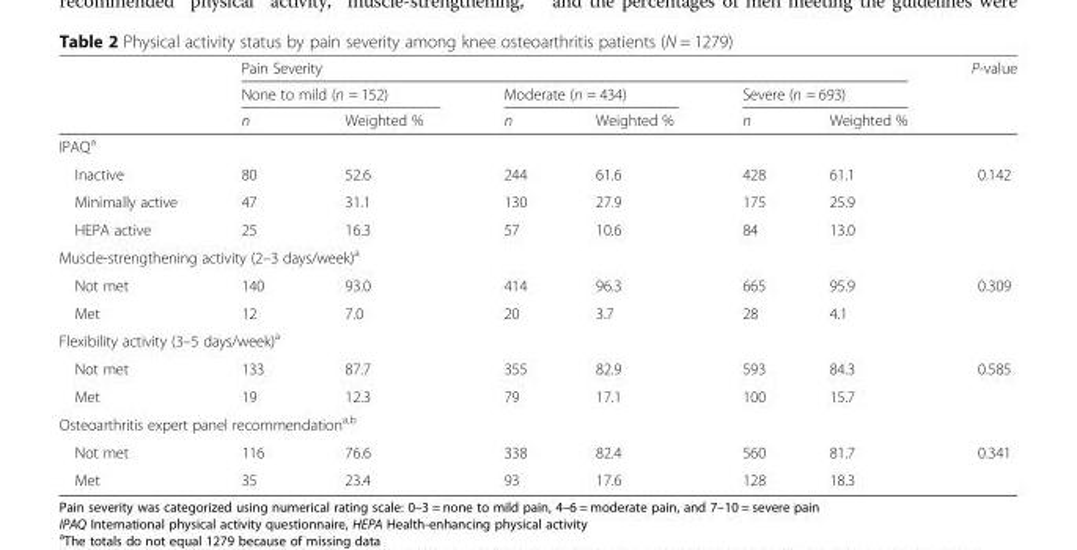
<table><thead><tr><td rowspan="3"></td><td colspan="6">Pain Severity</td><td rowspan="3">P-value</td></tr><tr><td colspan="2">None to mild (n = 152)</td><td colspan="2">Moderate (n = 434)</td><td colspan="2">Severe (n = 693)</td></tr><tr><td>n</td><td>Weighted %</td><td>n</td><td>Weighted %</td><td>n</td><td>Weighted %</td></tr></thead><tbody><tr><td colspan="8">IPAQ<sup>a</sup></td></tr><tr><td>Inactive</td><td>80</td><td>52.6</td><td>244</td><td>61.6</td><td>428</td><td>61.1</td><td>0.142</td></tr><tr><td>Minimally active</td><td>47</td><td>31.1</td><td>130</td><td>27.9</td><td>175</td><td>25.9</td><td></td></tr><tr><td>HEPA active</td><td>25</td><td>16.3</td><td>57</td><td>10.6</td><td>84</td><td>13.0</td><td></td></tr><tr><td colspan="8">Muscle-strengthening activity (2–3 days/week)<sup>a</sup></td></tr><tr><td>Not met</td><td>140</td><td>93.0</td><td>414</td><td>96.3</td><td>665</td><td>95.9</td><td>0.309</td></tr><tr><td>Met</td><td>12</td><td>7.0</td><td>20</td><td>3.7</td><td>28</td><td>4.1</td><td></td></tr><tr><td colspan="8">Flexibility activity (3–5 days/week)<sup>a</sup></td></tr><tr><td>Not met</td><td>133</td><td>87.7</td><td>355</td><td>82.9</td><td>593</td><td>84.3</td><td>0.585</td></tr><tr><td>Met</td><td>19</td><td>12.3</td><td>79</td><td>17.1</td><td>100</td><td>15.7</td><td></td></tr><tr><td colspan="8">Osteoarthritis expert panel recommendation<sup>a,b</sup></td></tr><tr><td>Not met</td><td>116</td><td>76.6</td><td>338</td><td>82.4</td><td>560</td><td>81.7</td><td>0.341</td></tr><tr><td>Met</td><td>35</td><td>23.4</td><td>93</td><td>17.6</td><td>128</td><td>18.3</td><td></td></tr></tbody></table>